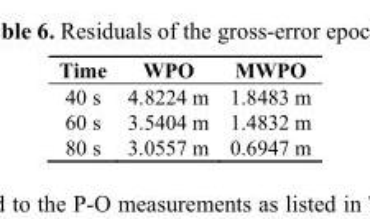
<table><thead><tr><td>Time</td><td>WPO</td><td>MWPO</td></tr></thead><tbody><tr><td>40 s</td><td>4.8224 m</td><td>1.8483 m</td></tr><tr><td>60 s</td><td>3.5404 m</td><td>1.4832 m</td></tr><tr><td>80 s</td><td>3.0557 m</td><td>0.6947 m</td></tr></tbody></table>